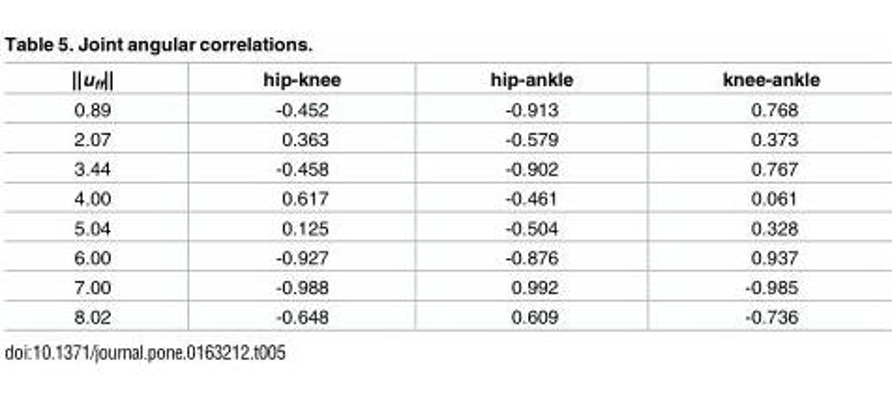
<table><thead><tr><td>||u<sub>ff</sub>||</td><td>hip-knee</td><td>hip-ankle</td><td>knee-ankle</td></tr></thead><tbody><tr><td>0.89</td><td>-0.452</td><td>-0.913</td><td>0.768</td></tr><tr><td>2.07</td><td>0.363</td><td>-0.579</td><td>0.373</td></tr><tr><td>3.44</td><td>-0.458</td><td>-0.902</td><td>0.767</td></tr><tr><td>4.00</td><td>0.617</td><td>-0.461</td><td>0.061</td></tr><tr><td>5.04</td><td>0.125</td><td>-0.504</td><td>0.328</td></tr><tr><td>6.00</td><td>-0.927</td><td>-0.876</td><td>0.937</td></tr><tr><td>7.00</td><td>-0.988</td><td>0.992</td><td>-0.985</td></tr><tr><td>8.02</td><td>-0.648</td><td>0.609</td><td>-0.736</td></tr></tbody></table>